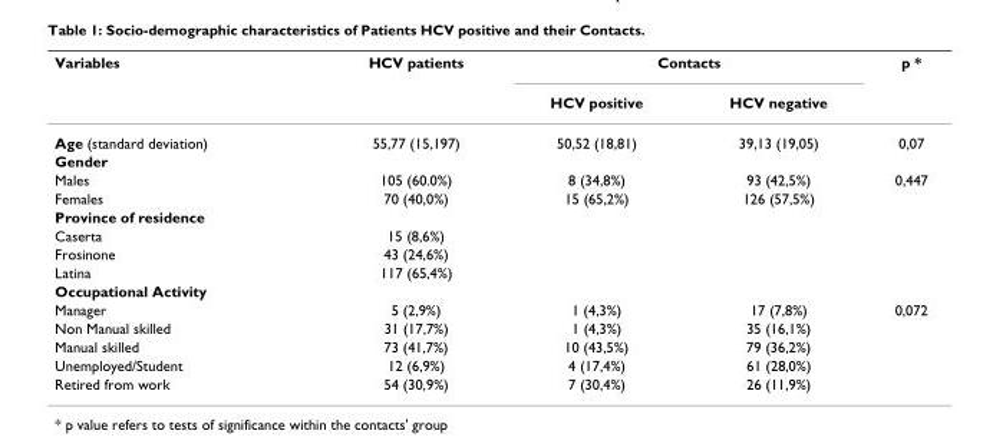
<table><thead><tr><td rowspan="2">Variables</td><td rowspan="2">HCV patients</td><td colspan="2">Contacts</td><td rowspan="2">p *</td></tr><tr><td>HCV positive</td><td>HCV negative</td></tr></thead><tbody><tr><td>Age (standard deviation)</td><td>55,77 (15,197)</td><td>50,52 (18,81)</td><td>39,13 (19,05)</td><td>0,07</td></tr><tr><td colspan="5">Gender</td></tr><tr><td>Males</td><td>105 (60.0%)</td><td>8 (34,8%)</td><td>93 (42,5%)</td><td>0,447</td></tr><tr><td>Females</td><td>70 (40,0%)</td><td>15 (65,2%)</td><td>126 (57,5%)</td><td></td></tr><tr><td colspan="5">Province of residence</td></tr><tr><td>Caserta</td><td>15 (8,6%)</td><td></td><td></td><td></td></tr><tr><td>Frosinone</td><td>43 (24,6%)</td><td></td><td></td><td></td></tr><tr><td>Latina</td><td>117 (65,4%)</td><td></td><td></td><td></td></tr><tr><td colspan="5">Occupational Activity</td></tr><tr><td>Manager</td><td>5 (2,9%)</td><td>1 (4,3%)</td><td>17 (7,8%)</td><td>0,072</td></tr><tr><td>Non Manual skilled</td><td>31 (17,7%)</td><td>1 (4,3%)</td><td>35 (16,1%)</td><td></td></tr><tr><td>Manual skilled</td><td>73 (41,7%)</td><td>10 (43,5%)</td><td>79 (36,2%)</td><td></td></tr><tr><td>Unemployed/Student</td><td>12 (6,9%)</td><td>4 (17,4%)</td><td>61 (28,0%)</td><td></td></tr><tr><td>Retired from work</td><td>54 (30,9%)</td><td>7 (30,4%)</td><td>26 (11,9%)</td><td></td></tr></tbody></table>